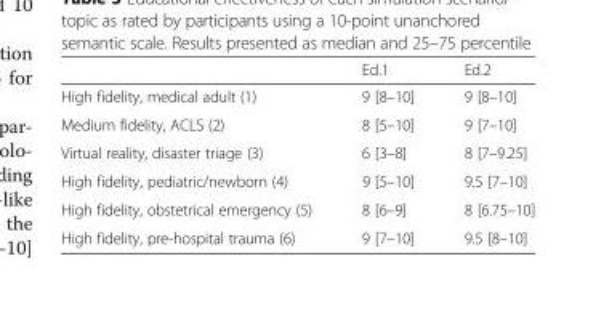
<table><thead><tr><td></td><td>Ed.1</td><td>Ed.2</td></tr></thead><tbody><tr><td>High fidelity, medical adult (1)</td><td>9 [8–10]</td><td>9 [8–10]</td></tr><tr><td>Medium fidelity, ACLS (2)</td><td>8 [5–10]</td><td>9 [7–10]</td></tr><tr><td>Virtual reality, disaster triage (3)</td><td>6 [3–8]</td><td>8 [7–9.25]</td></tr><tr><td>High fidelity, pediatric/newborn (4)</td><td>9 [5–10]</td><td>9.5 [7–10]</td></tr><tr><td>High fidelity, obstetrical emergency (5)</td><td>8 [6–9]</td><td>8 [6.75–10]</td></tr><tr><td>High fidelity, pre-hospital trauma (6)</td><td>9 [7–10]</td><td>9.5 [8–10]</td></tr></tbody></table>